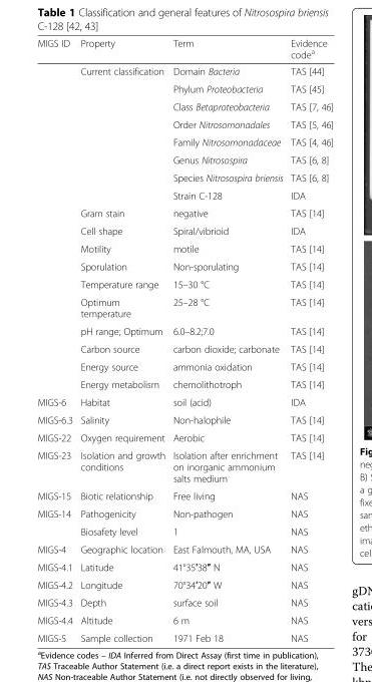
<table><thead><tr><td>MIGS ID</td><td>Property</td><td>Term</td><td>Evidence code<sup>a</sup></td></tr></thead><tbody><tr><td></td><td rowspan="8">Current classification</td><td>Domain Bacteria</td><td>TAS [44]</td></tr><tr><td></td><td>Phylum Proteobacteria</td><td>TAS [45]</td></tr><tr><td></td><td>Class Betaproteobacteria</td><td>TAS [7, 46]</td></tr><tr><td></td><td>Order Nitrosomonadales</td><td>TAS [5, 46]</td></tr><tr><td></td><td>Family Nitrosomonadaceae</td><td>TAS [4, 46]</td></tr><tr><td></td><td>Genus Nitrosospira</td><td>TAS [6, 8]</td></tr><tr><td></td><td>Species Nitrosospira briensis</td><td>TAS [6, 8]</td></tr><tr><td></td><td>Strain C-128</td><td>IDA</td></tr><tr><td></td><td>Gram stain</td><td>negative</td><td>TAS [14]</td></tr><tr><td></td><td>Cell shape</td><td>Spiral/vibrioid</td><td>IDA</td></tr><tr><td></td><td>Motility</td><td>motile</td><td>TAS [14]</td></tr><tr><td></td><td>Sporulation</td><td>Non-sporulating</td><td>TAS [14]</td></tr><tr><td></td><td>Temperature range</td><td>15–30 °C</td><td>TAS [14]</td></tr><tr><td></td><td>Optimum temperature</td><td>25–28 °C</td><td>TAS [14]</td></tr><tr><td></td><td>pH range; Optimum</td><td>6.0–8.2;7.0</td><td>TAS [14]</td></tr><tr><td></td><td>Carbon source</td><td>carbon dioxide; carbonate</td><td>TAS [14]</td></tr><tr><td></td><td>Energy source</td><td>ammonia oxidation</td><td>TAS [14]</td></tr><tr><td></td><td>Energy metabolism</td><td>chemolithotroph</td><td>TAS [14]</td></tr><tr><td>MIGS-6</td><td>Habitat</td><td>soil (acid)</td><td>IDA</td></tr><tr><td>MIGS-6.3</td><td>Salinity</td><td>Non-halophile</td><td>TAS [14]</td></tr><tr><td>MIGS-22</td><td>Oxygen requirement</td><td>Aerobic</td><td>TAS [14]</td></tr><tr><td>MIGS-23</td><td>Isolation and growth conditions</td><td>Isolation after enrichment on inorganic ammonium salts medium</td><td>TAS [14]</td></tr><tr><td>MIGS-15</td><td>Biotic relationship</td><td>Free living</td><td>NAS</td></tr><tr><td rowspan="2">MIGS-14</td><td>Pathogenicity</td><td>Non-pathogen</td><td>NAS</td></tr><tr><td>Biosafety level</td><td>1</td><td>NAS</td></tr><tr><td>MIGS-4</td><td>Geographic location</td><td>East Falmouth, MA, USA</td><td>NAS</td></tr><tr><td>MIGS-4.1</td><td>Latitude</td><td>41°35′38″ N</td><td>NAS</td></tr><tr><td>MIGS-4.2</td><td>Longitude</td><td>70°34′20″ W</td><td>NAS</td></tr><tr><td>MIGS-4.3</td><td>Depth</td><td>surface soil</td><td>NAS</td></tr><tr><td>MIGS-4.4</td><td>Altitude</td><td>6 m</td><td>NAS</td></tr><tr><td>MIGS-5</td><td>Sample collection</td><td>1971 Feb 18</td><td>NAS</td></tr></tbody></table>